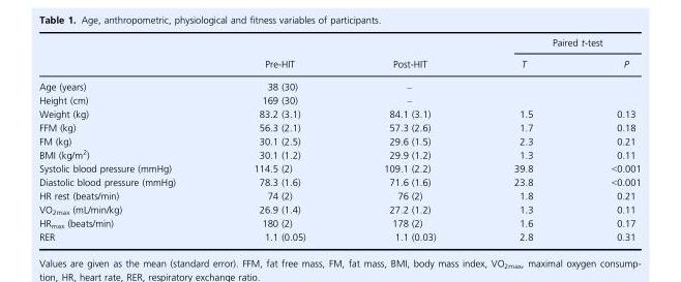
<table><thead><tr><td rowspan="2"></td><td rowspan="2">Pre-HIT</td><td rowspan="2">Post-HIT</td><td colspan="2">Paired t-test</td></tr><tr><td>T</td><td>P</td></tr></thead><tbody><tr><td>Age (years)</td><td>38 (30)</td><td>–</td><td></td><td></td></tr><tr><td>Height (cm)</td><td>169 (30)</td><td>–</td><td></td><td></td></tr><tr><td>Weight (kg)</td><td>83.2 (3.1)</td><td>84.1 (3.1)</td><td>1.5</td><td>0.13</td></tr><tr><td>FFM (kg)</td><td>56.3 (2.1)</td><td>57.3 (2.6)</td><td>1.7</td><td>0.18</td></tr><tr><td>FM (kg)</td><td>30.1 (2.5)</td><td>29.6 (1.5)</td><td>2.3</td><td>0.21</td></tr><tr><td>BMI (kg/m<sup>2</sup>)</td><td>30.1 (1.2)</td><td>29.9 (1.2)</td><td>1.3</td><td>0.11</td></tr><tr><td>Systolic blood pressure (mmHg)</td><td>114.5 (2)</td><td>109.1 (2.2)</td><td>39.8</td><td>&lt;0.001</td></tr><tr><td>Diastolic blood pressure (mmHg)</td><td>78.3 (1.6)</td><td>71.6 (1.6)</td><td>23.8</td><td>&lt;0.001</td></tr><tr><td>HR rest (beats/min)</td><td>74 (2)</td><td>76 (2)</td><td>1.8</td><td>0.21</td></tr><tr><td>VO<sub>2max</sub> (mL/min/kg)</td><td>26.9 (1.4)</td><td>27.2 (1.2)</td><td>1.3</td><td>0.11</td></tr><tr><td>HR<sub>max</sub> (beats/min)</td><td>180 (2)</td><td>178 (2)</td><td>1.6</td><td>0.17</td></tr><tr><td>RER</td><td>1.1 (0.05)</td><td>1.1 (0.03)</td><td>2.8</td><td>0.31</td></tr></tbody></table>